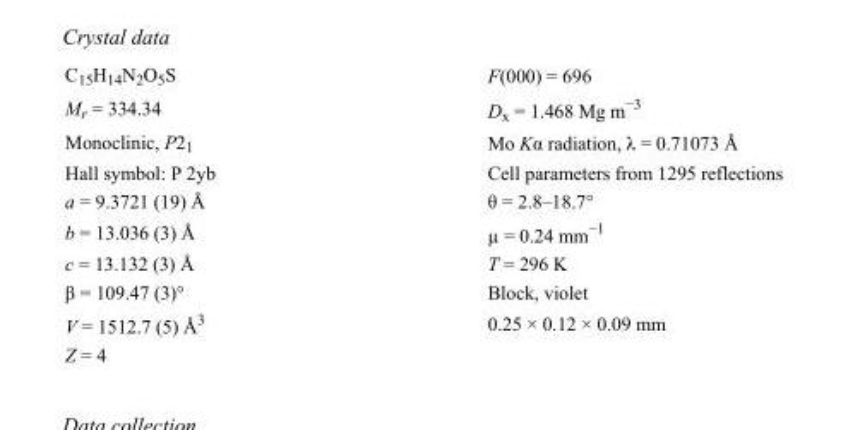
<table><tbody><tr><td>C<sub>15</sub>H<sub>14</sub>N<sub>2</sub>O<sub>5</sub>S</td><td>F(000) = 696</td></tr><tr><td>M<sub>r</sub> = 334.34</td><td>D<sub>x</sub> = 1.468 Mg m<sup>−3</sup></td></tr><tr><td>Monoclinic, P2<sub>1</sub></td><td>Mo Kα radiation, λ = 0.71073 Å</td></tr><tr><td>Hall symbol: P 2yb</td><td>Cell parameters from 1295 reflections</td></tr><tr><td>a = 9.3721 (19) Å</td><td>θ = 2.8–18.7°</td></tr><tr><td>b = 13.036 (3) Å</td><td>µ = 0.24 mm<sup>−1</sup></td></tr><tr><td>c = 13.132 (3) Å</td><td>T = 296 K</td></tr><tr><td>β = 109.47 (3)°</td><td>Block, violet</td></tr><tr><td>V = 1512.7 (5) Å<sup>3</sup></td><td>0.25 × 0.12 × 0.09 mm</td></tr><tr><td>Z = 4</td><td></td></tr></tbody></table>